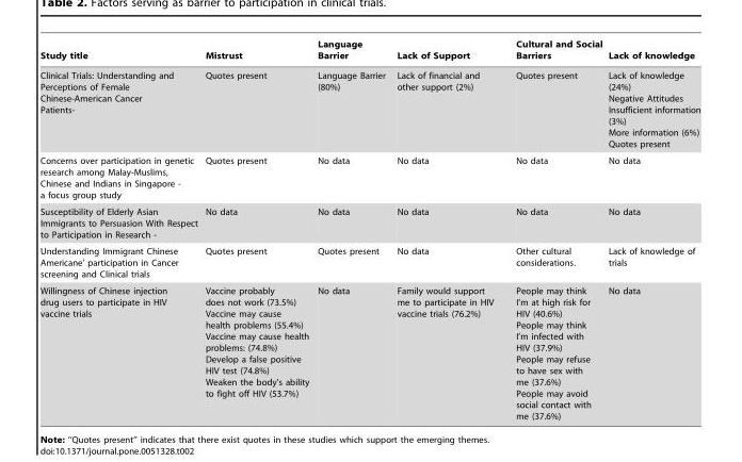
<table><thead><tr><td>Study title</td><td>Mistrust</td><td>Language Barrier</td><td>Lack of Support</td><td>Cultural and Social Barriers</td><td>Lack of knowledge</td></tr></thead><tbody><tr><td>Clinical Trials: Understanding and Perceptions of Female Chinese-American Cancer Patients-</td><td>Quotes present</td><td>Language Barrier (80%)</td><td>Lack of financial and other support (2%)</td><td>Quotes present</td><td>Lack of knowledge (24%) Negative Attitudes Insufficient information (3%) More information (6%) Quotes present</td></tr><tr><td>Concerns over participation in genetic research among Malay-Muslims, Chinese and Indians in Singapore - a focus group study</td><td>Quotes present</td><td>No data</td><td>No data</td><td>No data</td><td>No data</td></tr><tr><td>Susceptibility of Elderly Asian Immigrants to Persuasion With Respect to Participation in Research -</td><td>No data</td><td>No data</td><td>No data</td><td>No data</td><td>No data</td></tr><tr><td>Understanding Immigrant Chinese Americane’ participation in Cancer screening and Clinical trials</td><td>Quotes present</td><td>Quotes present</td><td>No data</td><td>Other cultural considerations.</td><td>Lack of knowledge of trials</td></tr><tr><td>Willingness of Chinese injection drug users to participate in HIV vaccine trials</td><td>Vaccine probably does not work (73.5%) Vaccine may cause health problems (55.4%) Vaccine may cause health problems: (74.8%) Develop a false positive HIV test (74.8%) Weaken the body’s ability to fight off HIV (53.7%)</td><td>No data</td><td>Family would support me to participate in HIV vaccine trials (76.2%)</td><td>People may think I’m at high risk for HIV (40.6%) People may think I’m infected with HIV (37.9%) People may refuse to have sex with me (37.6%) People may avoid social contact with me (37.6%)</td><td>No data</td></tr></tbody></table>